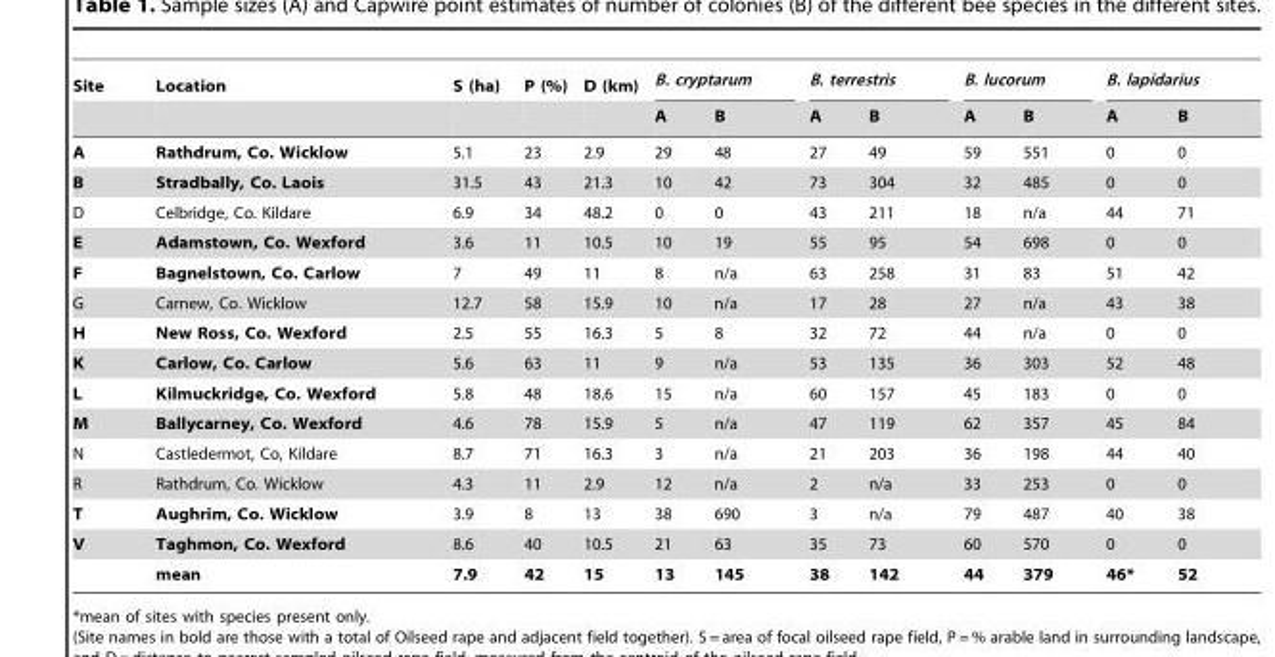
<table><thead><tr><td rowspan="2">Site</td><td rowspan="2">Location</td><td rowspan="2">S (ha)</td><td rowspan="2">P (%)</td><td rowspan="2">D (km)</td><td colspan="2">B. cryptarum</td><td colspan="2">B. terrestris</td><td colspan="2">B. lucorum</td><td colspan="2">B. lapidarius</td></tr><tr><td>A</td><td>B</td><td>A</td><td>B</td><td>A</td><td>B</td><td>A</td><td>B</td></tr></thead><tbody><tr><td>A</td><td>Rathdrum, Co. Wicklow</td><td>5.1</td><td>23</td><td>2.9</td><td>29</td><td>48</td><td>27</td><td>49</td><td>59</td><td>551</td><td>0</td><td>0</td></tr><tr><td>B</td><td>Stradbally, Co. Laois</td><td>31.5</td><td>43</td><td>21.3</td><td>10</td><td>42</td><td>73</td><td>304</td><td>32</td><td>485</td><td>0</td><td>0</td></tr><tr><td>D</td><td>Celbridge, Co. Kildare</td><td>6.9</td><td>34</td><td>48.2</td><td>0</td><td>0</td><td>43</td><td>211</td><td>18</td><td>n/a</td><td>44</td><td>71</td></tr><tr><td>E</td><td>Adamstown, Co. Wexford</td><td>3.6</td><td>11</td><td>10.5</td><td>10</td><td>19</td><td>55</td><td>95</td><td>54</td><td>698</td><td>0</td><td>0</td></tr><tr><td>F</td><td>Bagnelstown, Co. Carlow</td><td>7</td><td>49</td><td>11</td><td>8</td><td>n/a</td><td>63</td><td>258</td><td>31</td><td>83</td><td>51</td><td>42</td></tr><tr><td>G</td><td>Carnew, Co. Wicklow</td><td>12.7</td><td>58</td><td>15.9</td><td>10</td><td>n/a</td><td>17</td><td>28</td><td>27</td><td>n/a</td><td>43</td><td>38</td></tr><tr><td>H</td><td>New Ross, Co. Wexford</td><td>2.5</td><td>55</td><td>16.3</td><td>5</td><td>8</td><td>32</td><td>72</td><td>44</td><td>n/a</td><td>0</td><td>0</td></tr><tr><td>K</td><td>Carlow, Co. Carlow</td><td>5.6</td><td>63</td><td>11</td><td>9</td><td>n/a</td><td>53</td><td>135</td><td>36</td><td>303</td><td>52</td><td>48</td></tr><tr><td>L</td><td>Kilmuckridge, Co. Wexford</td><td>5.8</td><td>48</td><td>18.6</td><td>15</td><td>n/a</td><td>60</td><td>157</td><td>45</td><td>183</td><td>0</td><td>0</td></tr><tr><td>M</td><td>Ballycarney, Co. Wexford</td><td>4.6</td><td>78</td><td>15.9</td><td>5</td><td>n/a</td><td>47</td><td>119</td><td>62</td><td>357</td><td>45</td><td>84</td></tr><tr><td>N</td><td>Castledermot, Co, Kildare</td><td>8.7</td><td>71</td><td>16.3</td><td>3</td><td>n/a</td><td>21</td><td>203</td><td>36</td><td>198</td><td>44</td><td>40</td></tr><tr><td>R</td><td>Rathdrum, Co. Wicklow</td><td>4.3</td><td>11</td><td>2.9</td><td>12</td><td>n/a</td><td>2</td><td>n/a</td><td>33</td><td>253</td><td>0</td><td>0</td></tr><tr><td>T</td><td>Aughrim, Co. Wicklow</td><td>3.9</td><td>8</td><td>13</td><td>38</td><td>690</td><td>3</td><td>n/a</td><td>79</td><td>487</td><td>40</td><td>38</td></tr><tr><td rowspan="2">V</td><td>Taghmon, Co. Wexford</td><td>8.6</td><td>40</td><td>10.5</td><td>21</td><td>63</td><td>35</td><td>73</td><td>60</td><td>570</td><td>0</td><td>0</td></tr><tr><td>mean</td><td>7.9</td><td>42</td><td>15</td><td>13</td><td>145</td><td>38</td><td>142</td><td>44</td><td>379</td><td>46*</td><td>52</td></tr></tbody></table>